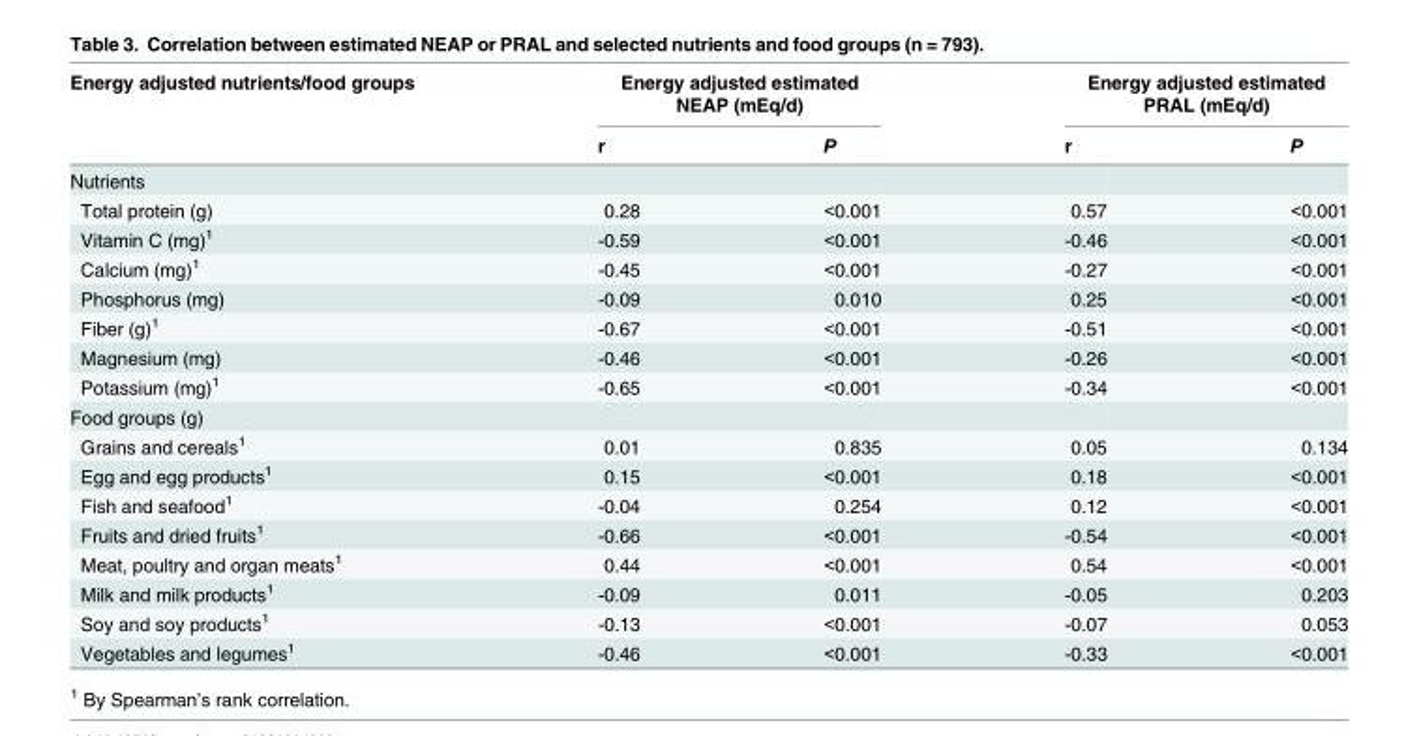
<table><thead><tr><td rowspan="2">Energy adjusted nutrients/food groups</td><td colspan="2">Energy adjusted estimated NEAP (mEq/d)</td><td colspan="2">Energy adjusted estimated PRAL (mEq/d)</td></tr><tr><td>r</td><td>P</td><td>r</td><td>P</td></tr></thead><tbody><tr><td colspan="5">Nutrients</td></tr><tr><td>Total protein (g)</td><td>0.28</td><td>&lt;0.001</td><td>0.57</td><td>&lt;0.001</td></tr><tr><td>Vitamin C (mg)<sup>1</sup></td><td>-0.59</td><td>&lt;0.001</td><td>-0.46</td><td>&lt;0.001</td></tr><tr><td>Calcium (mg)<sup>1</sup></td><td>-0.45</td><td>&lt;0.001</td><td>-0.27</td><td>&lt;0.001</td></tr><tr><td>Phosphorus (mg)</td><td>-0.09</td><td>0.010</td><td>0.25</td><td>&lt;0.001</td></tr><tr><td>Fiber (g)<sup>1</sup></td><td>-0.67</td><td>&lt;0.001</td><td>-0.51</td><td>&lt;0.001</td></tr><tr><td>Magnesium (mg)</td><td>-0.46</td><td>&lt;0.001</td><td>-0.26</td><td>&lt;0.001</td></tr><tr><td>Potassium (mg)<sup>1</sup></td><td>-0.65</td><td>&lt;0.001</td><td>-0.34</td><td>&lt;0.001</td></tr><tr><td colspan="5">Food groups (g)</td></tr><tr><td>Grains and cereals<sup>1</sup></td><td>0.01</td><td>0.835</td><td>0.05</td><td>0.134</td></tr><tr><td>Egg and egg products<sup>1</sup></td><td>0.15</td><td>&lt;0.001</td><td>0.18</td><td>&lt;0.001</td></tr><tr><td>Fish and seafood<sup>1</sup></td><td>-0.04</td><td>0.254</td><td>0.12</td><td>&lt;0.001</td></tr><tr><td>Fruits and dried fruits<sup>1</sup></td><td>-0.66</td><td>&lt;0.001</td><td>-0.54</td><td>&lt;0.001</td></tr><tr><td>Meat, poultry and organ meats<sup>1</sup></td><td>0.44</td><td>&lt;0.001</td><td>0.54</td><td>&lt;0.001</td></tr><tr><td>Milk and milk products<sup>1</sup></td><td>-0.09</td><td>0.011</td><td>-0.05</td><td>0.203</td></tr><tr><td>Soy and soy products<sup>1</sup></td><td>-0.13</td><td>&lt;0.001</td><td>-0.07</td><td>0.053</td></tr><tr><td>Vegetables and legumes<sup>1</sup></td><td>-0.46</td><td>&lt;0.001</td><td>-0.33</td><td>&lt;0.001</td></tr></tbody></table>